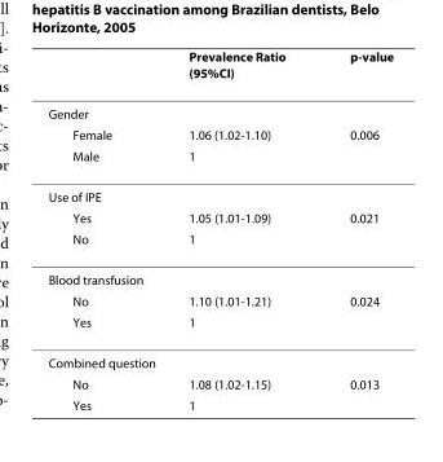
<table><thead><tr><td></td><td>Prevalence Ratio (95%CI)</td><td>p-value</td></tr></thead><tbody><tr><td colspan="3">Gender</td></tr><tr><td>Female</td><td>1.06 (1.02-1.10)</td><td>0.006</td></tr><tr><td>Male</td><td>1</td><td></td></tr><tr><td colspan="3">Use of IPE</td></tr><tr><td>Yes</td><td>1.05 (1.01-1.09)</td><td>0.021</td></tr><tr><td>No</td><td>1</td><td></td></tr><tr><td colspan="3">Blood transfusion</td></tr><tr><td>No</td><td>1.10 (1.01-1.21)</td><td>0.024</td></tr><tr><td>Yes</td><td>1</td><td></td></tr><tr><td colspan="3">Combined question</td></tr><tr><td>No</td><td>1.08 (1.02-1.15)</td><td>0.013</td></tr><tr><td>Yes</td><td>1</td><td></td></tr></tbody></table>